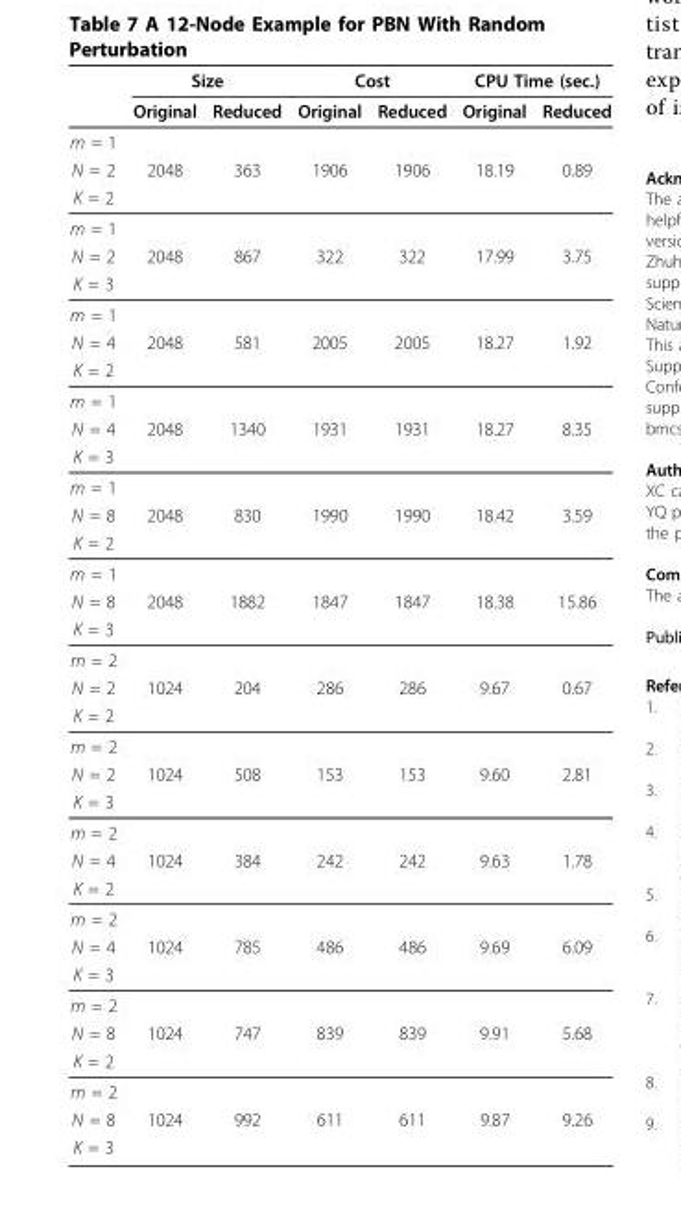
<table><thead><tr><td rowspan="2"></td><td colspan="2">Size</td><td colspan="2">Cost</td><td colspan="2">CPU Time (sec.)</td></tr><tr><td>Original</td><td>Reduced</td><td>Original</td><td>Reduced</td><td>Original</td><td>Reduced</td></tr></thead><tbody><tr><td colspan="7">m = 1</td></tr><tr><td>N = 2</td><td>2048</td><td>363</td><td>1906</td><td>1906</td><td>18.19</td><td>0.89</td></tr><tr><td colspan="7">K = 2</td></tr><tr><td colspan="7">m = 1</td></tr><tr><td>N = 2</td><td>2048</td><td>867</td><td>322</td><td>322</td><td>17.99</td><td>3.75</td></tr><tr><td colspan="7">K = 3</td></tr><tr><td colspan="7">m = 1</td></tr><tr><td>N = 4</td><td>2048</td><td>581</td><td>2005</td><td>2005</td><td>18.27</td><td>1.92</td></tr><tr><td colspan="7">K = 2</td></tr><tr><td colspan="7">m = 1</td></tr><tr><td>N = 4</td><td>2048</td><td>1340</td><td>1931</td><td>1931</td><td>18.27</td><td>8.35</td></tr><tr><td colspan="7">K = 3</td></tr><tr><td colspan="7">m = 1</td></tr><tr><td>N = 8</td><td>2048</td><td>830</td><td>1990</td><td>1990</td><td>18.42</td><td>3.59</td></tr><tr><td colspan="7">K = 2</td></tr><tr><td colspan="7">m = 1</td></tr><tr><td>N = 8</td><td>2048</td><td>1882</td><td>1847</td><td>1847</td><td>18.38</td><td>15.86</td></tr><tr><td colspan="7">K = 3</td></tr><tr><td colspan="7">m = 2</td></tr><tr><td>N = 2</td><td>1024</td><td>204</td><td>286</td><td>286</td><td>9.67</td><td>0.67</td></tr><tr><td colspan="7">K = 2</td></tr><tr><td colspan="7">m = 2</td></tr><tr><td>N = 2</td><td>1024</td><td>508</td><td>153</td><td>153</td><td>9.60</td><td>2.81</td></tr><tr><td colspan="7">K = 3</td></tr><tr><td colspan="7">m = 2</td></tr><tr><td>N = 4</td><td>1024</td><td>384</td><td>242</td><td>242</td><td>9.63</td><td>1.78</td></tr><tr><td colspan="7">K = 2</td></tr><tr><td colspan="7">m = 2</td></tr><tr><td>N = 4</td><td>1024</td><td>785</td><td>486</td><td>486</td><td>9.69</td><td>6.09</td></tr><tr><td colspan="7">K = 3</td></tr><tr><td colspan="7">m = 2</td></tr><tr><td>N = 8</td><td>1024</td><td>747</td><td>839</td><td>839</td><td>9.91</td><td>5.68</td></tr><tr><td colspan="7">K = 2</td></tr><tr><td colspan="7">m = 2</td></tr><tr><td>N = 8</td><td>1024</td><td>992</td><td>611</td><td>611</td><td>9.87</td><td>9.26</td></tr><tr><td>K = 3</td><td></td><td></td><td></td><td></td><td></td><td></td></tr></tbody></table>